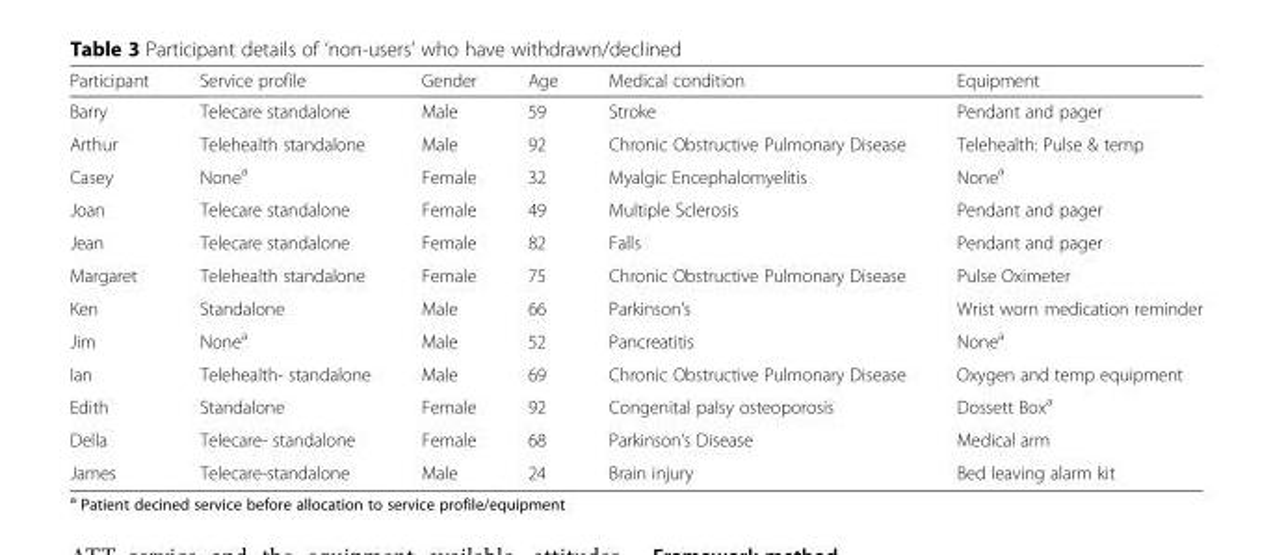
<table><thead><tr><td>Participant</td><td>Service profile</td><td>Gender</td><td>Age</td><td>Medical condition</td><td>Equipment</td></tr></thead><tbody><tr><td>Barry</td><td>Telecare standalone</td><td>Male</td><td>59</td><td>Stroke</td><td>Pendant and pager</td></tr><tr><td>Arthur</td><td>Telehealth standalone</td><td>Male</td><td>92</td><td>Chronic Obstructive Pulmonary Disease</td><td>Telehealth: Pulse &amp; temp</td></tr><tr><td>Casey</td><td>None<sup>a</sup></td><td>Female</td><td>32</td><td>Myalgic Encephalomyelitis</td><td>None<sup>a</sup></td></tr><tr><td>Joan</td><td>Telecare standalone</td><td>Female</td><td>49</td><td>Multiple Sclerosis</td><td>Pendant and pager</td></tr><tr><td>Jean</td><td>Telecare standalone</td><td>Female</td><td>82</td><td>Falls</td><td>Pendant and pager</td></tr><tr><td>Margaret</td><td>Telehealth standalone</td><td>Female</td><td>75</td><td>Chronic Obstructive Pulmonary Disease</td><td>Pulse Oximeter</td></tr><tr><td>Ken</td><td>Standalone</td><td>Male</td><td>66</td><td>Parkinson’s</td><td>Wrist worn medication reminder</td></tr><tr><td>Jim</td><td>None<sup>a</sup></td><td>Male</td><td>52</td><td>Pancreatitis</td><td>None<sup>a</sup></td></tr><tr><td>Ian</td><td>Telehealth- standalone</td><td>Male</td><td>69</td><td>Chronic Obstructive Pulmonary Disease</td><td>Oxygen and temp equipment</td></tr><tr><td>Edith</td><td>Standalone</td><td>Female</td><td>92</td><td>Congenital palsy osteoporosis</td><td>Dossett Box<sup>a</sup></td></tr><tr><td>Della</td><td>Telecare- standalone</td><td>Female</td><td>68</td><td>Parkinson’s Disease</td><td>Medical arm</td></tr><tr><td>James</td><td>Telecare-standalone</td><td>Male</td><td>24</td><td>Brain injury</td><td>Bed leaving alarm kit</td></tr></tbody></table>